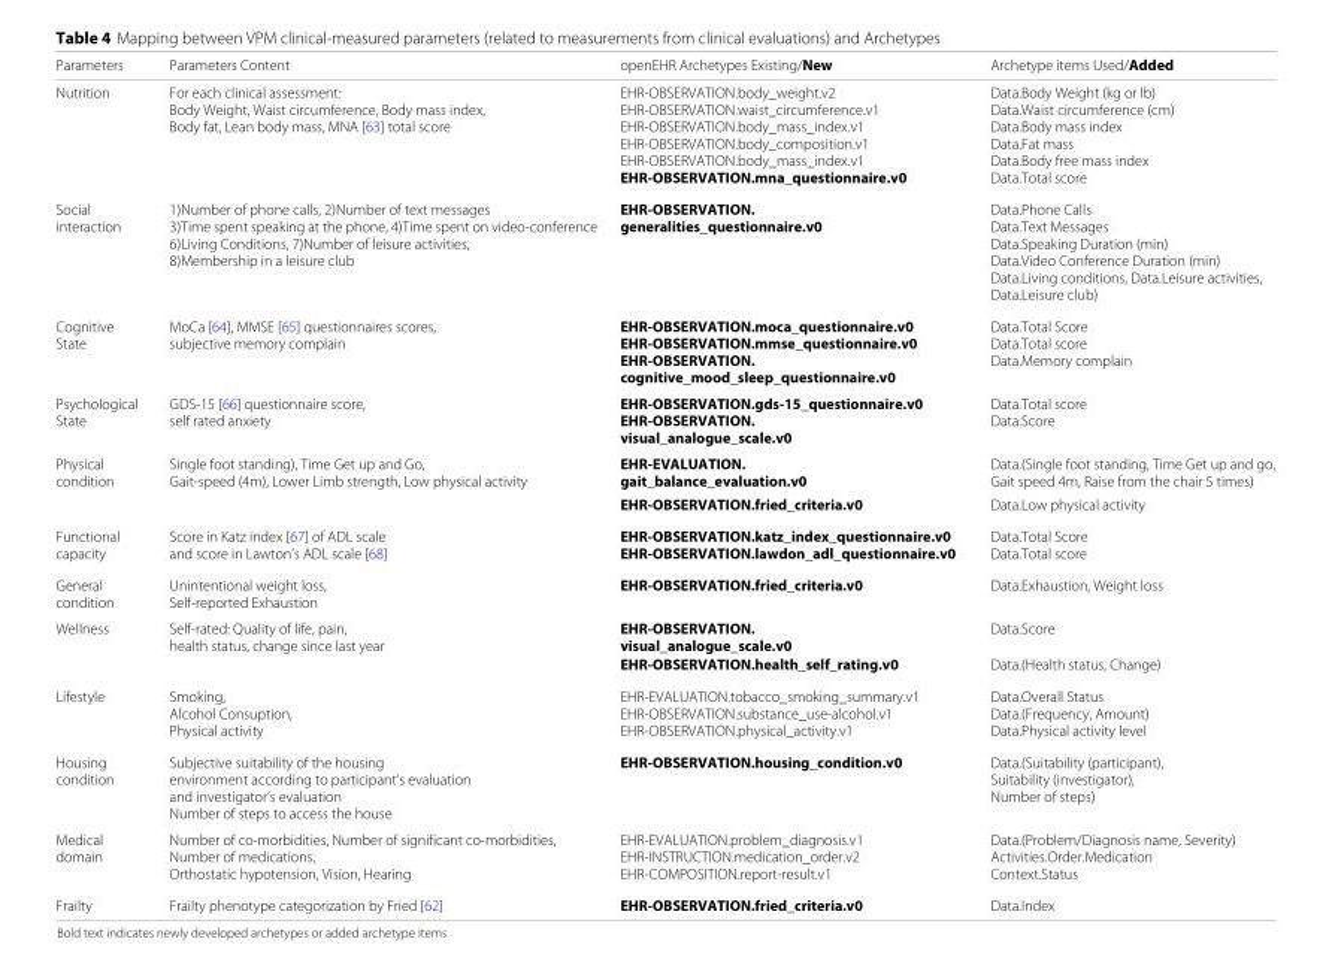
<table><thead><tr><td>Parameters</td><td>Parameters Content</td><td>openEHR Archetypes Existing/New</td><td>Archetype items Used/Added</td></tr></thead><tbody><tr><td>Nutrition</td><td>For each clinical assessment: Body Weight, Waist circumference, Body mass index, Body fat, Lean body mass, MNA [63] total score</td><td>EHR-OBSERVATION.body_weight.v2 EHR-OBSERVATION.waist_circumference.v1 EHR-OBSERVATION.body_mass_index.v1 EHR-OBSERVATION.body_composition.v1 EHR-OBSERVATION.body_mass_index.v1 EHR-OBSERVATION.mna_questionnaire.v0</td><td>Data.Body Weight (kg or lb) Data.Waist circumference (cm) Data.Body mass index Data.Fat mass Data.Body free mass index Data.Total score</td></tr><tr><td>Social interaction</td><td>1)Number of phone calls, 2)Number of text messages 3)Time spent speaking at the phone, 4)Time spent on video-conference 6)Living Conditions, 7)Number of leisure activities, 8)Membership in a leisure club</td><td>EHR-OBSERVATION. generalities_questionnaire.v0</td><td>Data.Phone Calls Data.Text Messages Data.Speaking Duration (min) Data.Video Conference Duration (min) Data.Living conditions, Data.Leisure activities, Data.Leisure club)</td></tr><tr><td>Cognitive State</td><td>MoCa [64], MMSE [65] questionnaires scores, subjective memory complain</td><td>EHR-OBSERVATION.moca_questionnaire.v0 EHR-OBSERVATION.mmse_questionnaire.v0 EHR-OBSERVATION. cognitive_mood_sleep_questionnaire.v0</td><td>Data.Total Score Data.Total score Data.Memory complain</td></tr><tr><td>Psychological State</td><td>GDS-15 [66] questionnaire score, self rated anxiety</td><td>EHR-OBSERVATION.gds-15_questionnaire.v0 EHR-OBSERVATION. visual_analogue_scale.v0</td><td>Data.Total score Data.Score</td></tr><tr><td>Physical condition</td><td>Single foot standing), Time Get up and Go, Gait-speed (4m), Lower Limb strength, Low physical activity</td><td>EHR-EVALUATION. gait_balance_evaluation.v0 EHR-OBSERVATION.fried_criteria.v0</td><td>Data.(Single foot standing, Time Get up and go, Gait speed 4m, Raise from the chair 5 times) Data.Low physical activity</td></tr><tr><td>Functional capacity</td><td>Score in Katz index [67] of ADL scale and score in Lawton’s ADL scale [68]</td><td>EHR-OBSERVATION.katz_index_questionnaire.v0 EHR-OBSERVATION.lawdon_adl_questionnaire.v0</td><td>Data.Total Score Data.Total score</td></tr><tr><td>General condition</td><td>Unintentional weight loss, Self-reported Exhaustion</td><td>EHR-OBSERVATION.fried_criteria.v0</td><td>Data.Exhaustion, Weight loss</td></tr><tr><td rowspan="2">Wellness</td><td>Self-rated: Quality of life, pain, health status, change since last year</td><td>EHR-OBSERVATION. visual_analogue_scale.v0</td><td>Data.Score</td></tr><tr><td></td><td>EHR-OBSERVATION.health_self_rating.v0</td><td>Data.(Health status, Change)</td></tr><tr><td>Lifestyle</td><td>Smoking, Alcohol Consuption, Physical activity</td><td>EHR-EVALUATION.tobacco_smoking_summary.v1 EHR-OBSERVATION.substance_use-alcohol.v1 EHR-OBSERVATION.physical_activity.v1</td><td>Data.Overall Status Data.(Frequency, Amount) Data.Physical activity level</td></tr><tr><td>Housing condition</td><td>Subjective suitability of the housing environment according to participant’s evaluation and investigator’s evaluation Number of steps to access the house</td><td>EHR-OBSERVATION.housing_condition.v0</td><td>Data.(Suitability (participant), Suitability (investigator), Number of steps)</td></tr><tr><td>Medical domain</td><td>Number of co-morbidities, Number of significant co-morbidities, Number of medications, Orthostatic hypotension, Vision, Hearing</td><td>EHR-EVALUATION.problem_diagnosis.v1 EHR-INSTRUCTION.medication_order.v2 EHR-COMPOSITION.report-result.v1</td><td>Data.(Problem/Diagnosis name, Severity) Activities.Order.Medication Context.Status</td></tr><tr><td>Frailty</td><td>Frailty phenotype categorization by Fried [62]</td><td>EHR-OBSERVATION.fried_criteria.v0</td><td>Data.Index</td></tr></tbody></table>